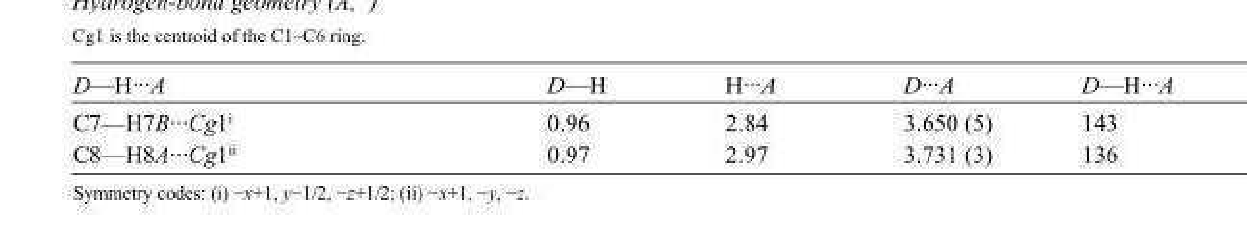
<table><tbody><tr><td>D—H···A</td><td>D—H</td><td>H···A</td><td>D···A</td><td>D—H···A</td></tr><tr><td>C7—H7B···Cg1<sup>i</sup></td><td>0.96</td><td>2.84</td><td>3.650 (5)</td><td>143</td></tr><tr><td>C8—H8A···Cg1<sup>ii</sup></td><td>0.97</td><td>2.97</td><td>3.731 (3)</td><td>136</td></tr></tbody></table>